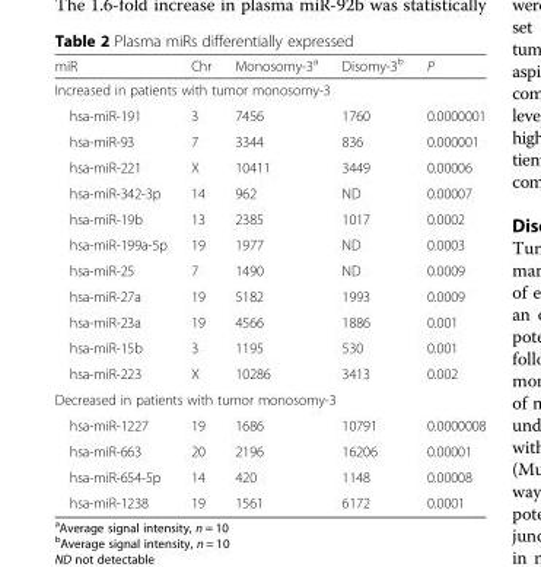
<table><thead><tr><td>miR</td><td>Chr</td><td>Monosomy-3<sup>a</sup></td><td>Disomy-3<sup>b</sup></td><td>P</td></tr></thead><tbody><tr><td colspan="5">Increased in patients with tumor monosomy-3</td></tr><tr><td>hsa-miR-191</td><td>3</td><td>7456</td><td>1760</td><td>0.0000001</td></tr><tr><td>hsa-miR-93</td><td>7</td><td>3344</td><td>836</td><td>0.000001</td></tr><tr><td>hsa-miR-221</td><td>X</td><td>10411</td><td>3449</td><td>0.00006</td></tr><tr><td>hsa-miR-342-3p</td><td>14</td><td>962</td><td>ND</td><td>0.00007</td></tr><tr><td>hsa-miR-19b</td><td>13</td><td>2385</td><td>1017</td><td>0.0002</td></tr><tr><td>hsa-miR-199a-5p</td><td>19</td><td>1977</td><td>ND</td><td>0.0003</td></tr><tr><td>hsa-miR-25</td><td>7</td><td>1490</td><td>ND</td><td>0.0009</td></tr><tr><td>hsa-miR-27a</td><td>19</td><td>5182</td><td>1993</td><td>0.0009</td></tr><tr><td>hsa-miR-23a</td><td>19</td><td>4566</td><td>1886</td><td>0.001</td></tr><tr><td>hsa-miR-15b</td><td>3</td><td>1195</td><td>530</td><td>0.001</td></tr><tr><td>hsa-miR-223</td><td>X</td><td>10286</td><td>3413</td><td>0.002</td></tr><tr><td colspan="5">Decreased in patients with tumor monosomy-3</td></tr><tr><td>hsa-miR-1227</td><td>19</td><td>1686</td><td>10791</td><td>0.0000008</td></tr><tr><td>hsa-miR-663</td><td>20</td><td>2196</td><td>16206</td><td>0.00001</td></tr><tr><td>hsa-miR-654-5p</td><td>14</td><td>420</td><td>1148</td><td>0.00008</td></tr><tr><td>hsa-miR-1238</td><td>19</td><td>1561</td><td>6172</td><td>0.0001</td></tr></tbody></table>